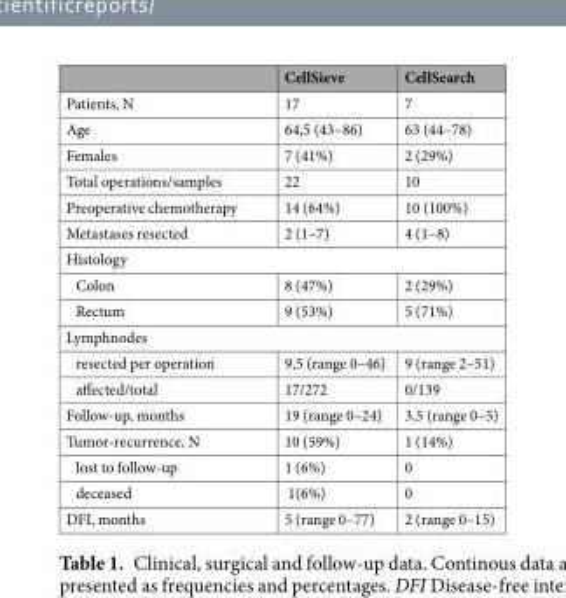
<table><thead><tr><td></td><td>CellSieve</td><td>CellSearch</td></tr></thead><tbody><tr><td>Patients, N</td><td>17</td><td>7</td></tr><tr><td>Age</td><td>64,5 (43–86)</td><td>63 (44–78)</td></tr><tr><td>Females</td><td>7 (41%)</td><td>2 (29%)</td></tr><tr><td>Total operations/samples</td><td>22</td><td>10</td></tr><tr><td>Preoperative chemotherapy</td><td>14 (64%)</td><td>10 (100%)</td></tr><tr><td>Metastases resected</td><td>2 (1–7)</td><td>4 (1–8)</td></tr><tr><td colspan="3">Histology</td></tr><tr><td>Colon</td><td>8 (47%)</td><td>2 (29%)</td></tr><tr><td>Rectum</td><td>9 (53%)</td><td>5 (71%)</td></tr><tr><td colspan="3">Lymphnodes</td></tr><tr><td>resected per operation</td><td>9,5 (range 0–46)</td><td>9 (range 2–51)</td></tr><tr><td>affected/total</td><td>17/272</td><td>0/139</td></tr><tr><td>Follow-up, months</td><td>19 (range 0–24)</td><td>3,5 (range 0–5)</td></tr><tr><td>Tumor-recurrence, N</td><td>10 (59%)</td><td>1 (14%)</td></tr><tr><td>lost to follow-up</td><td>1 (6%)</td><td>0</td></tr><tr><td>deceased</td><td>1(6%)</td><td>0</td></tr><tr><td>DFI, months</td><td>5 (range 0–77)</td><td>2 (range 0–15)</td></tr></tbody></table>